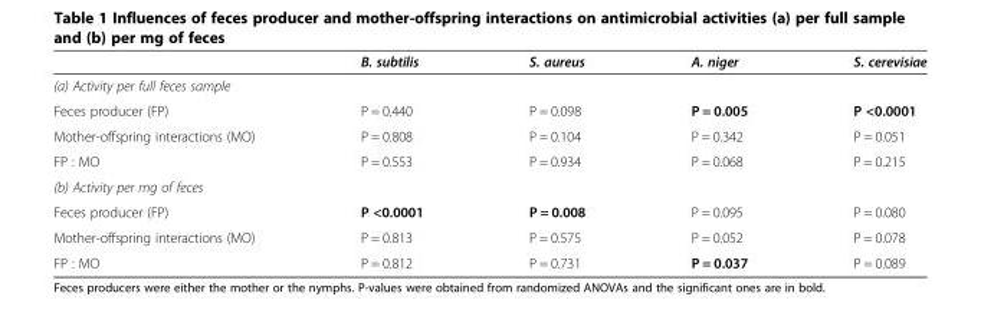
<table><thead><tr><td></td><td>B. subtilis</td><td>S. aureus</td><td>A. niger</td><td>S. cerevisiae</td></tr></thead><tbody><tr><td colspan="5">(a) Activity per full feces sample</td></tr><tr><td>Feces producer (FP)</td><td>P = 0.440</td><td>P = 0.098</td><td>P = 0.005</td><td>P &lt;0.0001</td></tr><tr><td>Mother-offspring interactions (MO)</td><td>P = 0.808</td><td>P = 0.104</td><td>P = 0.342</td><td>P = 0.051</td></tr><tr><td>FP : MO</td><td>P = 0.553</td><td>P = 0.934</td><td>P = 0.068</td><td>P = 0.215</td></tr><tr><td colspan="5">(b) Activity per mg of feces</td></tr><tr><td>Feces producer (FP)</td><td>P &lt;0.0001</td><td>P = 0.008</td><td>P = 0.095</td><td>P = 0.080</td></tr><tr><td>Mother-offspring interactions (MO)</td><td>P = 0.813</td><td>P = 0.575</td><td>P = 0.052</td><td>P = 0.078</td></tr><tr><td>FP : MO</td><td>P = 0.812</td><td>P = 0.731</td><td>P = 0.037</td><td>P = 0.089</td></tr></tbody></table>